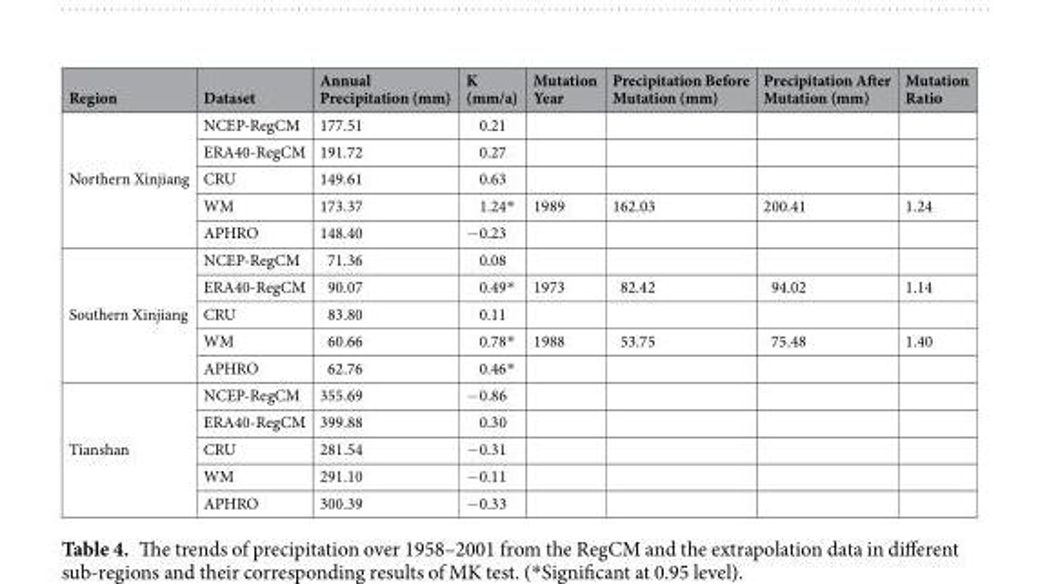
<table><thead><tr><td>Region</td><td>Dataset</td><td>Annual Precipitation (mm)</td><td>K (mm/a)</td><td>Mutation Year</td><td>Precipitation Before Mutation (mm)</td><td>Precipitation After Mutation (mm)</td><td>Mutation Ratio</td></tr></thead><tbody><tr><td rowspan="5">Northern Xinjiang</td><td>NCEP-RegCM</td><td>177.51</td><td>0.21</td><td></td><td></td><td></td><td></td></tr><tr><td>ERA40-RegCM</td><td>191.72</td><td>0.27</td><td></td><td></td><td></td><td></td></tr><tr><td>CRU</td><td>149.61</td><td>0.63</td><td></td><td></td><td></td><td></td></tr><tr><td>WM</td><td>173.37</td><td>1.24*</td><td>1989</td><td>162.03</td><td>200.41</td><td>1.24</td></tr><tr><td>APHRO</td><td>148.40</td><td>−0.23</td><td></td><td></td><td></td><td></td></tr><tr><td rowspan="5">Southern Xinjiang</td><td>NCEP-RegCM</td><td>71.36</td><td>0.08</td><td></td><td></td><td></td><td></td></tr><tr><td>ERA40-RegCM</td><td>90.07</td><td>0.49*</td><td>1973</td><td>82.42</td><td>94.02</td><td>1.14</td></tr><tr><td>CRU</td><td>83.80</td><td>0.11</td><td></td><td></td><td></td><td></td></tr><tr><td>WM</td><td>60.66</td><td>0.78*</td><td>1988</td><td>53.75</td><td>75.48</td><td>1.40</td></tr><tr><td>APHRO</td><td>62.76</td><td>0.46*</td><td></td><td></td><td></td><td></td></tr><tr><td rowspan="5">Tianshan</td><td>NCEP-RegCM</td><td>355.69</td><td>−0.86</td><td></td><td></td><td></td><td></td></tr><tr><td>ERA40-RegCM</td><td>399.88</td><td>0.30</td><td></td><td></td><td></td><td></td></tr><tr><td>CRU</td><td>281.54</td><td>−0.31</td><td></td><td></td><td></td><td></td></tr><tr><td>WM</td><td>291.10</td><td>−0.11</td><td></td><td></td><td></td><td></td></tr><tr><td>APHRO</td><td>300.39</td><td>−0.33</td><td></td><td></td><td></td><td></td></tr></tbody></table>